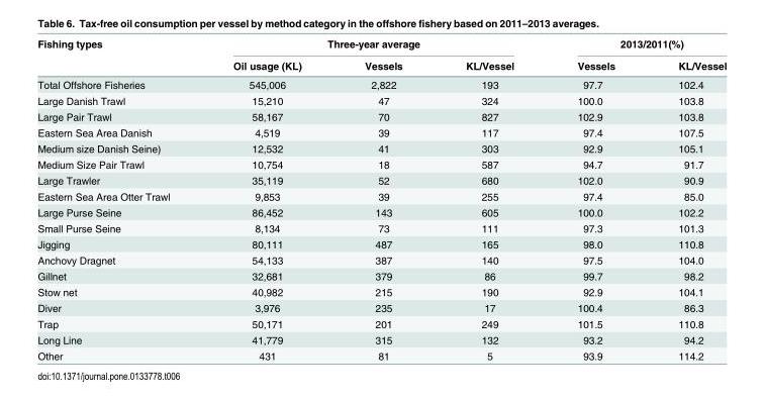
<table><thead><tr><td rowspan="2">Fishing types</td><td colspan="3">Three-year average</td><td colspan="2">2013/2011(%)</td></tr><tr><td>Oil usage (KL)</td><td>Vessels</td><td>KL/Vessel</td><td>Vessels</td><td>KL/Vessel</td></tr></thead><tbody><tr><td>Total Offshore Fisheries</td><td>545,006</td><td>2,822</td><td>193</td><td>97.7</td><td>102.4</td></tr><tr><td>Large Danish Trawl</td><td>15,210</td><td>47</td><td>324</td><td>100.0</td><td>103.8</td></tr><tr><td>Large Pair Trawl</td><td>58,167</td><td>70</td><td>827</td><td>102.9</td><td>103.8</td></tr><tr><td>Eastern Sea Area Danish</td><td>4,519</td><td>39</td><td>117</td><td>97.4</td><td>107.5</td></tr><tr><td>Medium size Danish Seine)</td><td>12,532</td><td>41</td><td>303</td><td>92.9</td><td>105.1</td></tr><tr><td>Medium Size Pair Trawl</td><td>10,754</td><td>18</td><td>587</td><td>94.7</td><td>91.7</td></tr><tr><td>Large Trawler</td><td>35,119</td><td>52</td><td>680</td><td>102.0</td><td>90.9</td></tr><tr><td>Eastern Sea Area Otter Trawl</td><td>9,853</td><td>39</td><td>255</td><td>97.4</td><td>85.0</td></tr><tr><td>Large Purse Seine</td><td>86,452</td><td>143</td><td>605</td><td>100.0</td><td>102.2</td></tr><tr><td>Small Purse Seine</td><td>8,134</td><td>73</td><td>111</td><td>97.3</td><td>101.3</td></tr><tr><td>Jigging</td><td>80,111</td><td>487</td><td>165</td><td>98.0</td><td>110.8</td></tr><tr><td>Anchovy Dragnet</td><td>54,133</td><td>387</td><td>140</td><td>97.5</td><td>104.0</td></tr><tr><td>Gillnet</td><td>32,681</td><td>379</td><td>86</td><td>99.7</td><td>98.2</td></tr><tr><td>Stow net</td><td>40,982</td><td>215</td><td>190</td><td>92.9</td><td>104.1</td></tr><tr><td>Diver</td><td>3,976</td><td>235</td><td>17</td><td>100.4</td><td>86.3</td></tr><tr><td>Trap</td><td>50,171</td><td>201</td><td>249</td><td>101.5</td><td>110.8</td></tr><tr><td>Long Line</td><td>41,779</td><td>315</td><td>132</td><td>93.2</td><td>94.2</td></tr><tr><td>Other</td><td>431</td><td>81</td><td>5</td><td>93.9</td><td>114.2</td></tr></tbody></table>